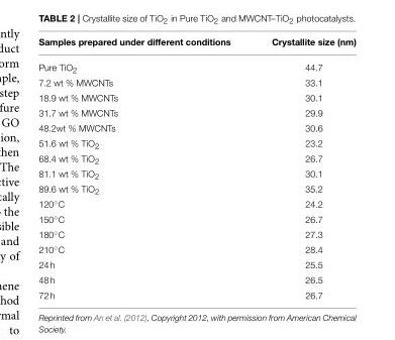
<table><thead><tr><td>Samples prepared under different conditions</td><td>Crystallite size (nm)</td></tr></thead><tbody><tr><td>Pure TiO<sub>2</sub></td><td>44.7</td></tr><tr><td>7.2 wt % MWCNTs</td><td>33.1</td></tr><tr><td>18.9 wt % MWCNTs</td><td>30.1</td></tr><tr><td>31.7 wt % MWCNTs</td><td>29.9</td></tr><tr><td>48.2wt % MWCNTs</td><td>30.6</td></tr><tr><td>51.6 wt % TiO<sub>2</sub></td><td>23.2</td></tr><tr><td>68.4 wt % TiO<sub>2</sub></td><td>26.7</td></tr><tr><td>81.1 wt % TiO<sub>2</sub></td><td>30.1</td></tr><tr><td>89.6 wt % TiO<sub>2</sub></td><td>35.2</td></tr><tr><td>120◦C</td><td>24.2</td></tr><tr><td>150◦C</td><td>26.7</td></tr><tr><td>180◦C</td><td>27.3</td></tr><tr><td>210◦C</td><td>28.4</td></tr><tr><td>24 h</td><td>25.5</td></tr><tr><td>48 h</td><td>26.5</td></tr><tr><td>72 h</td><td>26.7</td></tr></tbody></table>